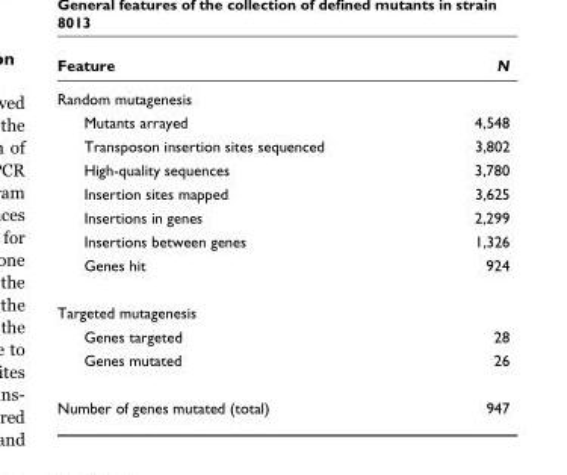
<table><thead><tr><td>Feature</td><td>N</td></tr></thead><tbody><tr><td colspan="2">Random mutagenesis</td></tr><tr><td>Mutants arrayed</td><td>4,548</td></tr><tr><td>Transposon insertion sites sequenced</td><td>3,802</td></tr><tr><td>High-quality sequences</td><td>3,780</td></tr><tr><td>Insertion sites mapped</td><td>3,625</td></tr><tr><td>Insertions in genes</td><td>2,299</td></tr><tr><td>Insertions between genes</td><td>1,326</td></tr><tr><td>Genes hit</td><td>924</td></tr><tr><td colspan="2">Targeted mutagenesis</td></tr><tr><td>Genes targeted</td><td>28</td></tr><tr><td>Genes mutated</td><td>26</td></tr><tr><td>Number of genes mutated (total)</td><td>947</td></tr></tbody></table>